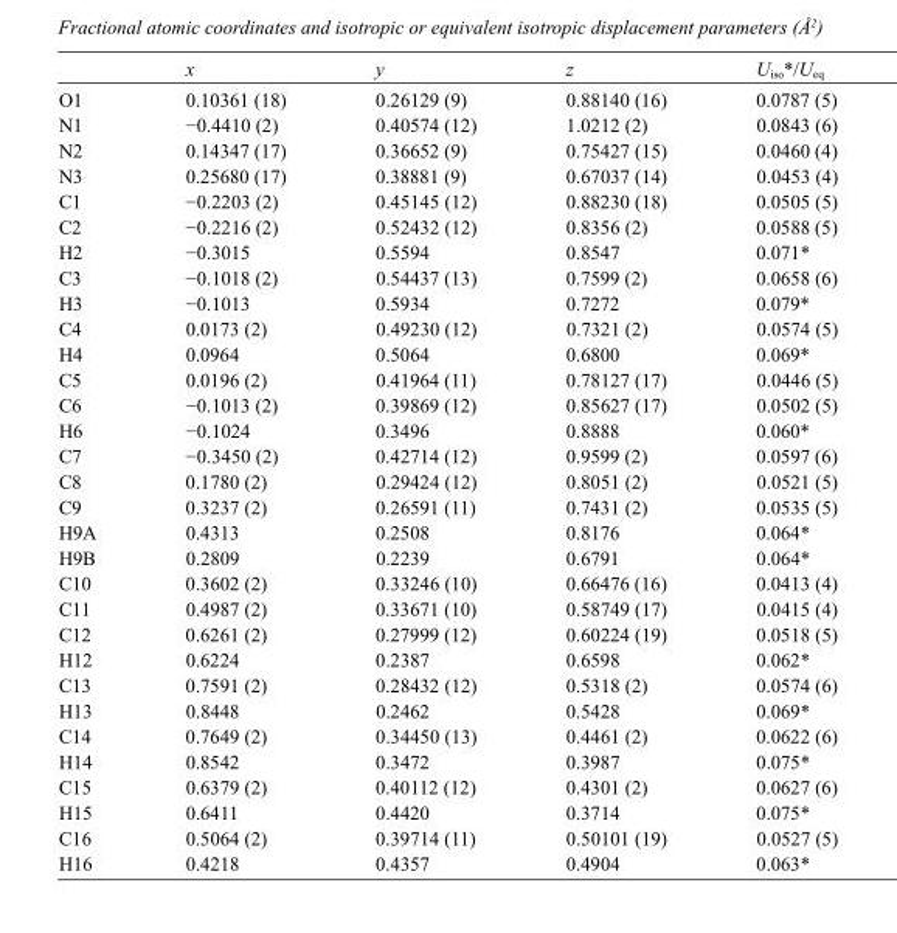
<table><thead><tr><td></td><td>x</td><td>y</td><td>z</td><td>U<sub>iso</sub>*/U<sub>eq</sub></td></tr></thead><tbody><tr><td>O1</td><td>0.10361 (18)</td><td>0.26129 (9)</td><td>0.88140 (16)</td><td>0.0787 (5)</td></tr><tr><td>N1</td><td>−0.4410 (2)</td><td>0.40574 (12)</td><td>1.0212 (2)</td><td>0.0843 (6)</td></tr><tr><td>N2</td><td>0.14347 (17)</td><td>0.36652 (9)</td><td>0.75427 (15)</td><td>0.0460 (4)</td></tr><tr><td>N3</td><td>0.25680 (17)</td><td>0.38881 (9)</td><td>0.67037 (14)</td><td>0.0453 (4)</td></tr><tr><td>C1</td><td>−0.2203 (2)</td><td>0.45145 (12)</td><td>0.88230 (18)</td><td>0.0505 (5)</td></tr><tr><td>C2</td><td>−0.2216 (2)</td><td>0.52432 (12)</td><td>0.8356 (2)</td><td>0.0588 (5)</td></tr><tr><td>H2</td><td>−0.3015</td><td>0.5594</td><td>0.8547</td><td>0.071*</td></tr><tr><td>C3</td><td>−0.1018 (2)</td><td>0.54437 (13)</td><td>0.7599 (2)</td><td>0.0658 (6)</td></tr><tr><td>H3</td><td>−0.1013</td><td>0.5934</td><td>0.7272</td><td>0.079*</td></tr><tr><td>C4</td><td>0.0173 (2)</td><td>0.49230 (12)</td><td>0.7321 (2)</td><td>0.0574 (5)</td></tr><tr><td>H4</td><td>0.0964</td><td>0.5064</td><td>0.6800</td><td>0.069*</td></tr><tr><td>C5</td><td>0.0196 (2)</td><td>0.41964 (11)</td><td>0.78127 (17)</td><td>0.0446 (5)</td></tr><tr><td>C6</td><td>−0.1013 (2)</td><td>0.39869 (12)</td><td>0.85627 (17)</td><td>0.0502 (5)</td></tr><tr><td>H6</td><td>−0.1024</td><td>0.3496</td><td>0.8888</td><td>0.060*</td></tr><tr><td>C7</td><td>−0.3450 (2)</td><td>0.42714 (12)</td><td>0.9599 (2)</td><td>0.0597 (6)</td></tr><tr><td>C8</td><td>0.1780 (2)</td><td>0.29424 (12)</td><td>0.8051 (2)</td><td>0.0521 (5)</td></tr><tr><td>C9</td><td>0.3237 (2)</td><td>0.26591 (11)</td><td>0.7431 (2)</td><td>0.0535 (5)</td></tr><tr><td>H9A</td><td>0.4313</td><td>0.2508</td><td>0.8176</td><td>0.064*</td></tr><tr><td>H9B</td><td>0.2809</td><td>0.2239</td><td>0.6791</td><td>0.064*</td></tr><tr><td>C10</td><td>0.3602 (2)</td><td>0.33246 (10)</td><td>0.66476 (16)</td><td>0.0413 (4)</td></tr><tr><td>C11</td><td>0.4987 (2)</td><td>0.33671 (10)</td><td>0.58749 (17)</td><td>0.0415 (4)</td></tr><tr><td>C12</td><td>0.6261 (2)</td><td>0.27999 (12)</td><td>0.60224 (19)</td><td>0.0518 (5)</td></tr><tr><td>H12</td><td>0.6224</td><td>0.2387</td><td>0.6598</td><td>0.062*</td></tr><tr><td>C13</td><td>0.7591 (2)</td><td>0.28432 (12)</td><td>0.5318 (2)</td><td>0.0574 (6)</td></tr><tr><td>H13</td><td>0.8448</td><td>0.2462</td><td>0.5428</td><td>0.069*</td></tr><tr><td>C14</td><td>0.7649 (2)</td><td>0.34450 (13)</td><td>0.4461 (2)</td><td>0.0622 (6)</td></tr><tr><td>H14</td><td>0.8542</td><td>0.3472</td><td>0.3987</td><td>0.075*</td></tr><tr><td>C15</td><td>0.6379 (2)</td><td>0.40112 (12)</td><td>0.4301 (2)</td><td>0.0627 (6)</td></tr><tr><td>H15</td><td>0.6411</td><td>0.4420</td><td>0.3714</td><td>0.075*</td></tr><tr><td>C16</td><td>0.5064 (2)</td><td>0.39714 (11)</td><td>0.50101 (19)</td><td>0.0527 (5)</td></tr><tr><td>H16</td><td>0.4218</td><td>0.4357</td><td>0.4904</td><td>0.063*</td></tr></tbody></table>